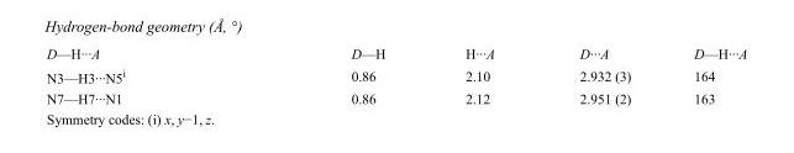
<table><tbody><tr><td>D—H···A</td><td>D—H</td><td>H···A</td><td>D···A</td><td>D—H···A</td></tr><tr><td>N3—H3···N5<sup>i</sup></td><td>0.86</td><td>2.10</td><td>2.932 (3)</td><td>164</td></tr><tr><td>N7—H7···N1</td><td>0.86</td><td>2.12</td><td>2.951 (2)</td><td>163</td></tr></tbody></table>